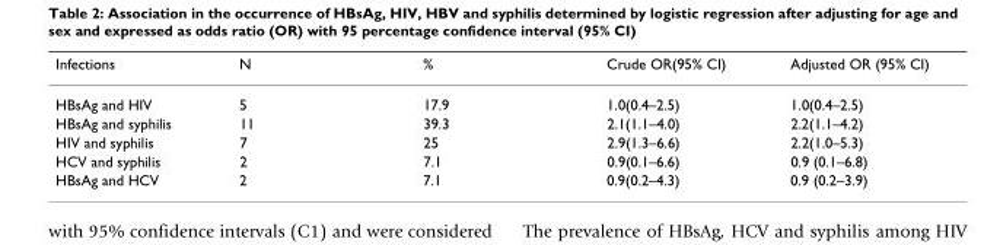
<table><thead><tr><td>Infections</td><td>N</td><td>%</td><td>Crude OR(95% CI)</td><td>Adjusted OR (95% CI)</td></tr></thead><tbody><tr><td>HBsAg and HIV</td><td>5</td><td>17.9</td><td>1.0(0.4–2.5)</td><td>1.0(0.4–2.5)</td></tr><tr><td>HBsAg and syphilis</td><td>11</td><td>39.3</td><td>2.1(1.1–4.0)</td><td>2.2(1.1–4.2)</td></tr><tr><td>HIV and syphilis</td><td>7</td><td>25</td><td>2.9(1.3–6.6)</td><td>2.2(1.0–5.3)</td></tr><tr><td>HCV and syphilis</td><td>2</td><td>7.1</td><td>0.9(0.1–6.6)</td><td>0.9 (0.1–6.8)</td></tr><tr><td>HBsAg and HCV</td><td>2</td><td>7.1</td><td>0.9(0.2–4.3)</td><td>0.9 (0.2–3.9)</td></tr></tbody></table>